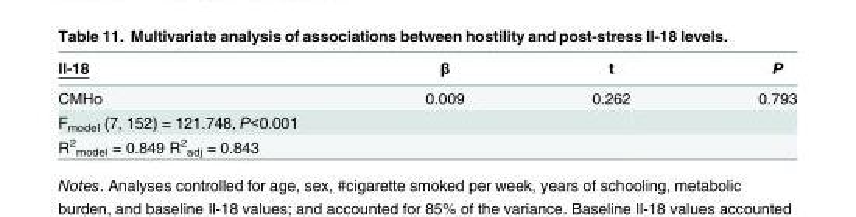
<table><thead><tr><td>Il-18</td><td>β</td><td>t</td><td>P</td></tr></thead><tbody><tr><td>CMHo</td><td>0.009</td><td>0.262</td><td>0.793</td></tr><tr><td colspan="4">F<sub>model</sub> (7, 152) = 121.748, P&lt;0.001</td></tr><tr><td>R<sup>2</sup> <sub>model</sub> = 0.849 R<sup>2</sup> <sub>adj</sub> = 0.843</td><td></td><td></td><td></td></tr></tbody></table>